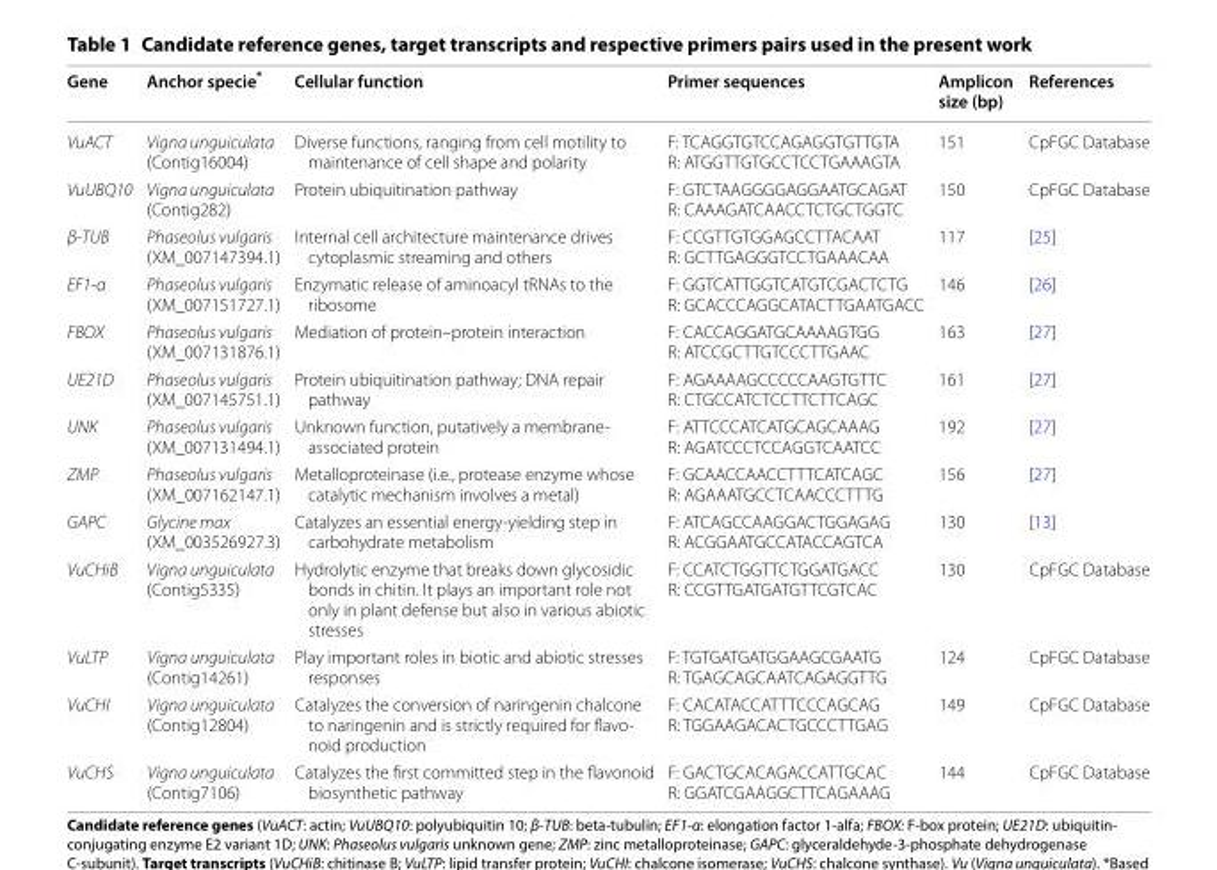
<table><thead><tr><td>Gene</td><td>Anchor specie*</td><td>Cellular function</td><td>Primer sequences</td><td>Amplicon size (bp)</td><td>References</td></tr></thead><tbody><tr><td>VuACT</td><td>Vigna unguiculata (Contig16004)</td><td>Diverse functions, ranging from cell motility to maintenance of cell shape and polarity</td><td>F: TCA GGT GTC CAG AGG TGT TGTA R: ATG GTT GTG CCT CCT GAA AGTA</td><td>151</td><td>CpFGC Database</td></tr><tr><td>VuUBQ10</td><td>Vigna unguiculata (Contig282)</td><td>Protein ubiquitination pathway</td><td>F: GTC TAA GGG GAG GAA TGC AGAT R: CAA AGA TCA ACC TCT GCT GGTC</td><td>150</td><td>CpFGC Database</td></tr><tr><td>β‑TUB</td><td>Phaseolus vulgaris (XM_007147394.1)</td><td>Internal cell architecture maintenance drives cytoplasmic streaming and others</td><td>F: CCG TTG TGG AGC CTT ACA AT R: GCT TGA GGG TCC TGA AAC AA</td><td>117</td><td>[25]</td></tr><tr><td>EF1‑α</td><td>Phaseolus vulgaris (XM_007151727.1)</td><td>Enzymatic release of aminoacyl tRNAs to the ribosome</td><td>F: GGT CAT TGG TCA TGT CGA CTCTG R: GCA CCC AGG CAT ACT TGA ATG ACC</td><td>146</td><td>[26]</td></tr><tr><td>FBOX</td><td>Phaseolus vulgaris (XM_007131876.1)</td><td>Mediation of protein–protein interaction</td><td>F: CAC CAG GAT GCA AAA GTG G R: ATC CGC TTG TCC CTT GAA C</td><td>163</td><td>[27]</td></tr><tr><td>UE21D</td><td>Phaseolus vulgaris (XM_007145751.1)</td><td>Protein ubiquitination pathway; DNA repair pathway</td><td>F: AGA AAA GCC CCC AAG TGT TC R: CTG CCA TCT CCT TCT TCA GC</td><td>161</td><td>[27]</td></tr><tr><td>UNK</td><td>Phaseolus vulgaris (XM_007131494.1)</td><td>Unknown function, putatively a membrane‑ associated protein</td><td>F: ATT CCC ATC ATG CAG CAA AG R: AGA TCC CTC CAG GTC AAT CC</td><td>192</td><td>[27]</td></tr><tr><td>ZMP</td><td>Phaseolus vulgaris (XM_007162147.1)</td><td>Metalloproteinase (i.e., protease enzyme whose catalytic mechanism involves a metal)</td><td>F: GCA ACC AAC CTT TCA TCA GC R: AGA AAT GCC TCA ACC CTT TG</td><td>156</td><td>[27]</td></tr><tr><td>GAPC</td><td>Glycine max (XM_003526927.3)</td><td>Catalyzes an essential energy‑yielding step in carbohydrate metabolism</td><td>F: ATC AGC CAA GGA CTG GAG AG R: ACG GAA TGC CAT ACC AGT CA</td><td>130</td><td>[13]</td></tr><tr><td>VuCHiB</td><td>Vigna unguiculata (Contig5335)</td><td>Hydrolytic enzyme that breaks down glycosidic bonds in chitin. It plays an important role not only in plant defense but also in various abiotic stresses</td><td>F: CCA TCT GGT TCT GGA TGA CC R: CCG TTG ATG ATG TTC GTC AC</td><td>130</td><td>CpFGC Database</td></tr><tr><td>VuLTP</td><td>Vigna unguiculata (Contig14261)</td><td>Play important roles in biotic and abiotic stresses responses</td><td>F: TGT GAT GAT GGA AGC GAA TG R: TGA GCA GCA ATC AGA GGT TG</td><td>124</td><td>CpFGC Database</td></tr><tr><td>VuCHI</td><td>Vigna unguiculata (Contig12804)</td><td>Catalyzes the conversion of naringenin chalcone to naringenin and is strictly required for flavo‑ noid production</td><td>F: CAC ATA CCA TTT CCC AGC AG R: TGG AAG ACA CTG CCC TTG AG</td><td>149</td><td>CpFGC Database</td></tr><tr><td>VuCHS</td><td>Vigna unguiculata (Contig7106)</td><td>Catalyzes the first committed step in the flavonoid biosynthetic pathway</td><td>F: GAC TGC ACA GAC CAT TGC AC R: GGA TCG AAG GCT TCA GAA AG</td><td>144</td><td>CpFGC Database</td></tr></tbody></table>